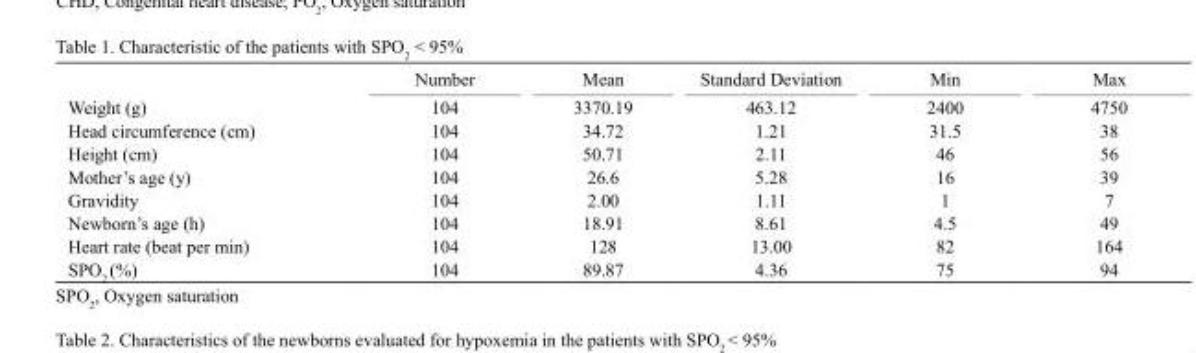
<table><thead><tr><td></td><td>Number</td><td>Mean</td><td>Standard Deviation</td><td>Min</td><td>Max</td></tr></thead><tbody><tr><td>Weight (g)</td><td>104</td><td>3370.19</td><td>463.12</td><td>2400</td><td>4750</td></tr><tr><td>Head circumference (cm)</td><td>104</td><td>34.72</td><td>1.21</td><td>31.5</td><td>38</td></tr><tr><td>Height (cm)</td><td>104</td><td>50.71</td><td>2.11</td><td>46</td><td>56</td></tr><tr><td>Mother’s age (y)</td><td>104</td><td>26.6</td><td>5.28</td><td>16</td><td>39</td></tr><tr><td>Gravidity</td><td>104</td><td>2.00</td><td>1.11</td><td>1</td><td>7</td></tr><tr><td>Newborn’s age (h)</td><td>104</td><td>18.91</td><td>8.61</td><td>4.5</td><td>49</td></tr><tr><td>Heart rate (beat per min)</td><td>104</td><td>128</td><td>13.00</td><td>82</td><td>164</td></tr><tr><td>SPO<sub>2</sub> (%)</td><td>104</td><td>89.87</td><td>4.36</td><td>75</td><td>94</td></tr></tbody></table>